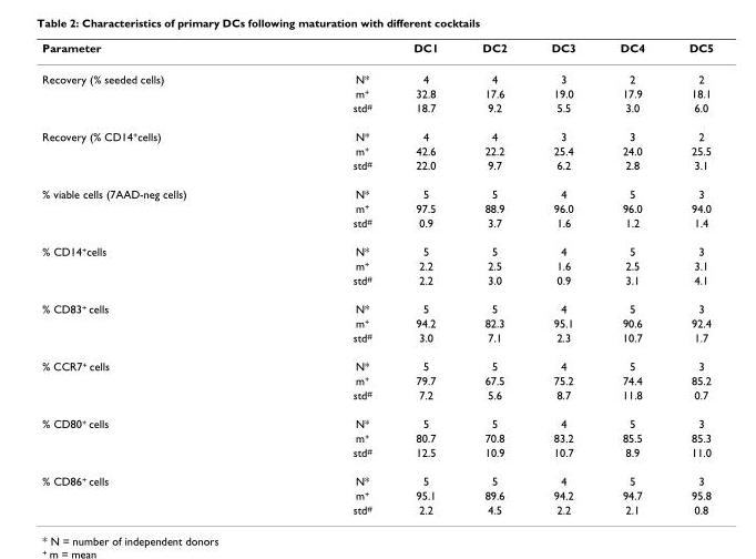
<table><thead><tr><td>Parameter</td><td></td><td>DC1</td><td>DC2</td><td>DC3</td><td>DC4</td><td>DC5</td></tr></thead><tbody><tr><td rowspan="3">Recovery (% seeded cells)</td><td>N*</td><td>4</td><td>4</td><td>3</td><td>2</td><td>2</td></tr><tr><td>m<sup>+</sup></td><td>32.8</td><td>17.6</td><td>19.0</td><td>17.9</td><td>18.1</td></tr><tr><td>std<sup>#</sup></td><td>18.7</td><td>9.2</td><td>5.5</td><td>3.0</td><td>6.0</td></tr><tr><td rowspan="3">Recovery (% CD14<sup>+</sup>cells)</td><td>N*</td><td>4</td><td>4</td><td>3</td><td>3</td><td>2</td></tr><tr><td>m<sup>+</sup></td><td>42.6</td><td>22.2</td><td>25.4</td><td>24.0</td><td>25.5</td></tr><tr><td>std<sup>#</sup></td><td>22.0</td><td>9.7</td><td>6.2</td><td>2.8</td><td>3.1</td></tr><tr><td rowspan="3">% viable cells (7AAD-neg cells)</td><td>N*</td><td>5</td><td>5</td><td>4</td><td>5</td><td>3</td></tr><tr><td>m<sup>+</sup></td><td>97.5</td><td>88.9</td><td>96.0</td><td>96.0</td><td>94.0</td></tr><tr><td>std<sup>#</sup></td><td>0.9</td><td>3.7</td><td>1.6</td><td>1.2</td><td>1.4</td></tr><tr><td rowspan="3">% CD14<sup>+</sup>cells</td><td>N*</td><td>5</td><td>5</td><td>4</td><td>5</td><td>3</td></tr><tr><td>m<sup>+</sup></td><td>2.2</td><td>2.5</td><td>1.6</td><td>2.5</td><td>3.1</td></tr><tr><td>std<sup>#</sup></td><td>2.2</td><td>3.0</td><td>0.9</td><td>3.1</td><td>4.1</td></tr><tr><td rowspan="3">% CD83<sup>+</sup> cells</td><td>N*</td><td>5</td><td>5</td><td>4</td><td>5</td><td>3</td></tr><tr><td>m<sup>+</sup></td><td>94.2</td><td>82.3</td><td>95.1</td><td>90.6</td><td>92.4</td></tr><tr><td>std<sup>#</sup></td><td>3.0</td><td>7.1</td><td>2.3</td><td>10.7</td><td>1.7</td></tr><tr><td rowspan="3">% CCR7<sup>+</sup> cells</td><td>N*</td><td>5</td><td>5</td><td>4</td><td>5</td><td>3</td></tr><tr><td>m<sup>+</sup></td><td>79.7</td><td>67.5</td><td>75.2</td><td>74.4</td><td>85.2</td></tr><tr><td>std<sup>#</sup></td><td>7.2</td><td>5.6</td><td>8.7</td><td>11.8</td><td>0.7</td></tr><tr><td rowspan="3">% CD80<sup>+</sup> cells</td><td>N*</td><td>5</td><td>5</td><td>4</td><td>5</td><td>3</td></tr><tr><td>m<sup>+</sup></td><td>80.7</td><td>70.8</td><td>83.2</td><td>85.5</td><td>85.3</td></tr><tr><td>std<sup>#</sup></td><td>12.5</td><td>10.9</td><td>10.7</td><td>8.9</td><td>11.0</td></tr><tr><td rowspan="3">% CD86<sup>+</sup> cells</td><td>N*</td><td>5</td><td>5</td><td>4</td><td>5</td><td>3</td></tr><tr><td>m<sup>+</sup></td><td>95.1</td><td>89.6</td><td>94.2</td><td>94.7</td><td>95.8</td></tr><tr><td>std<sup>#</sup></td><td>2.2</td><td>4.5</td><td>2.2</td><td>2.1</td><td>0.8</td></tr></tbody></table>